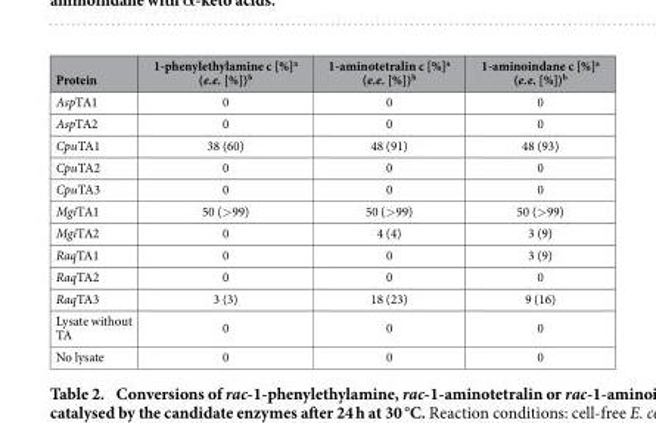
<table><thead><tr><td>Protein</td><td>1-phenylethylamine c [%]<sup>a</sup> (e.e. [%])<sup>b</sup></td><td>1-aminotetralin c [%]<sup>a</sup> (e.e. [%])<sup>b</sup></td><td>1-aminoindane c [%]<sup>a</sup> (e.e. [%])<sup>b</sup></td></tr></thead><tbody><tr><td>AspTA1</td><td>0</td><td>0</td><td>0</td></tr><tr><td>AspTA2</td><td>0</td><td>0</td><td>0</td></tr><tr><td>CpuTA1</td><td>38 (60)</td><td>48 (91)</td><td>48 (93)</td></tr><tr><td>CpuTA2</td><td>0</td><td>0</td><td>0</td></tr><tr><td>CpuTA3</td><td>0</td><td>0</td><td>0</td></tr><tr><td>MgiTA1</td><td>50 (&gt; 99)</td><td>50 (&gt; 99)</td><td>50 (&gt; 99)</td></tr><tr><td>MgiTA2</td><td>0</td><td>4 (4)</td><td>3 (9)</td></tr><tr><td>RaqTA1</td><td>0</td><td>0</td><td>3 (9)</td></tr><tr><td>RaqTA2</td><td>0</td><td>0</td><td>0</td></tr><tr><td>RaqTA3</td><td>3 (3)</td><td>18 (23)</td><td>9 (16)</td></tr><tr><td>Lysate without TA</td><td>0</td><td>0</td><td>0</td></tr><tr><td>No lysate</td><td>0</td><td>0</td><td>0</td></tr></tbody></table>